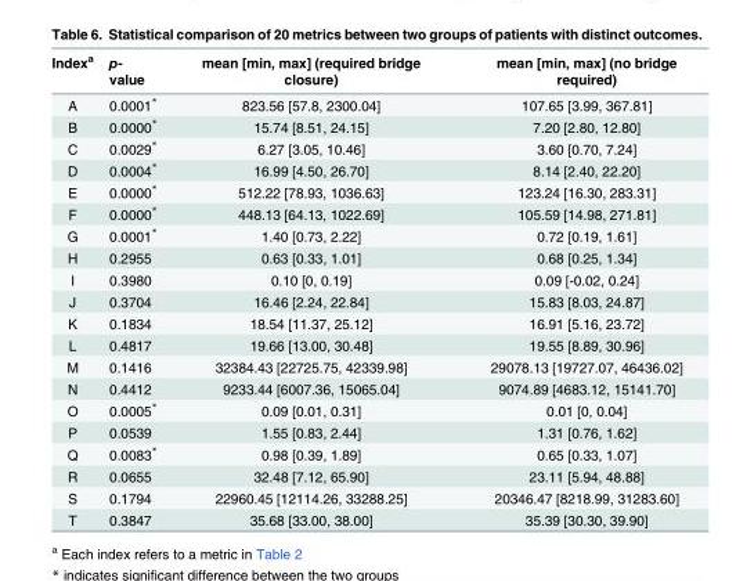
<table><thead><tr><td>Index<sup>a</sup></td><td>p- value</td><td>mean [min, max] (required bridge closure)</td><td>mean [min, max] (no bridge required)</td></tr></thead><tbody><tr><td>A</td><td>0.0001*</td><td>823.56 [57.8, 2300.04]</td><td>107.65 [3.99, 367.81]</td></tr><tr><td>B</td><td>0.0000*</td><td>15.74 [8.51, 24.15]</td><td>7.20 [2.80, 12.80]</td></tr><tr><td>C</td><td>0.0029*</td><td>6.27 [3.05, 10.46]</td><td>3.60 [0.70, 7.24]</td></tr><tr><td>D</td><td>0.0004*</td><td>16.99 [4.50, 26.70]</td><td>8.14 [2.40, 22.20]</td></tr><tr><td>E</td><td>0.0000*</td><td>512.22 [78.93, 1036.63]</td><td>123.24 [16.30, 283.31]</td></tr><tr><td>F</td><td>0.0000*</td><td>448.13 [64.13, 1022.69]</td><td>105.59 [14.98, 271.81]</td></tr><tr><td>G</td><td>0.0001*</td><td>1.40 [0.73, 2.22]</td><td>0.72 [0.19, 1.61]</td></tr><tr><td>H</td><td>0.2955</td><td>0.63 [0.33, 1.01]</td><td>0.68 [0.25, 1.34]</td></tr><tr><td>I</td><td>0.3980</td><td>0.10 [0, 0.19]</td><td>0.09 [-0.02, 0.24]</td></tr><tr><td>J</td><td>0.3704</td><td>16.46 [2.24, 22.84]</td><td>15.83 [8.03, 24.87]</td></tr><tr><td>K</td><td>0.1834</td><td>18.54 [11.37, 25.12]</td><td>16.91 [5.16, 23.72]</td></tr><tr><td>L</td><td>0.4817</td><td>19.66 [13.00, 30.48]</td><td>19.55 [8.89, 30.96]</td></tr><tr><td>M</td><td>0.1416</td><td>32384.43 [22725.75, 42339.98]</td><td>29078.13 [19727.07, 46436.02]</td></tr><tr><td>N</td><td>0.4412</td><td>9233.44 [6007.36, 15065.04]</td><td>9074.89 [4683.12, 15141.70]</td></tr><tr><td>O</td><td>0.0005*</td><td>0.09 [0.01, 0.31]</td><td>0.01 [0, 0.04]</td></tr><tr><td>P</td><td>0.0539</td><td>1.55 [0.83, 2.44]</td><td>1.31 [0.76, 1.62]</td></tr><tr><td>Q</td><td>0.0083*</td><td>0.98 [0.39, 1.89]</td><td>0.65 [0.33, 1.07]</td></tr><tr><td>R</td><td>0.0655</td><td>32.48 [7.12, 65.90]</td><td>23.11 [5.94, 48.88]</td></tr><tr><td>S</td><td>0.1794</td><td>22960.45 [12114.26, 33288.25]</td><td>20346.47 [8218.99, 31283.60]</td></tr><tr><td>T</td><td>0.3847</td><td>35.68 [33.00, 38.00]</td><td>35.39 [30.30, 39.90]</td></tr></tbody></table>